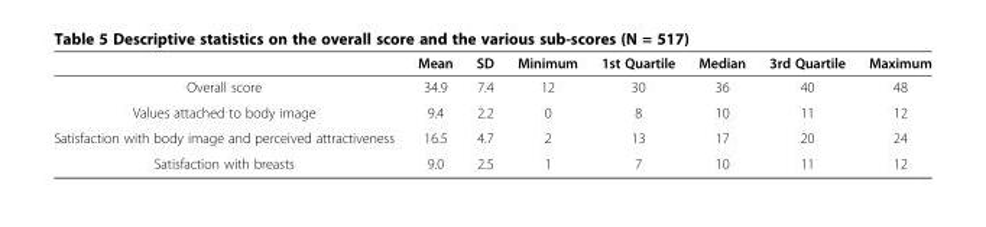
<table><thead><tr><td></td><td>Mean</td><td>SD</td><td>Minimum</td><td>1st Quartile</td><td>Median</td><td>3rd Quartile</td><td>Maximum</td></tr></thead><tbody><tr><td>Overall score</td><td>34.9</td><td>7.4</td><td>12</td><td>30</td><td>36</td><td>40</td><td>48</td></tr><tr><td>Values attached to body image</td><td>9.4</td><td>2.2</td><td>0</td><td>8</td><td>10</td><td>11</td><td>12</td></tr><tr><td>Satisfaction with body image and perceived attractiveness</td><td>16.5</td><td>4.7</td><td>2</td><td>13</td><td>17</td><td>20</td><td>24</td></tr><tr><td>Satisfaction with breasts</td><td>9.0</td><td>2.5</td><td>1</td><td>7</td><td>10</td><td>11</td><td>12</td></tr></tbody></table>